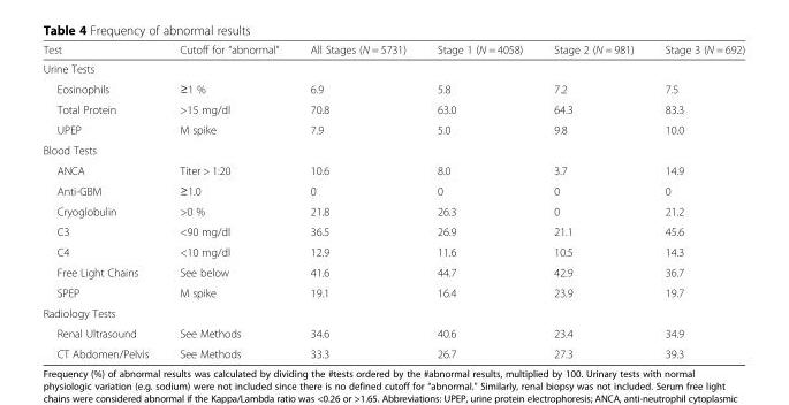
<table><thead><tr><td>Test</td><td>Cutoff for “abnormal”</td><td>All Stages (N = 5731)</td><td>Stage 1 (N = 4058)</td><td>Stage 2 (N = 981)</td><td>Stage 3 (N = 692)</td></tr></thead><tbody><tr><td colspan="6">Urine Tests</td></tr><tr><td>Eosinophils</td><td>≥1 %</td><td>6.9</td><td>5.8</td><td>7.2</td><td>7.5</td></tr><tr><td>Total Protein</td><td>&gt;15 mg/dl</td><td>70.8</td><td>63.0</td><td>64.3</td><td>83.3</td></tr><tr><td>UPEP</td><td>M spike</td><td>7.9</td><td>5.0</td><td>9.8</td><td>10.0</td></tr><tr><td colspan="6">Blood Tests</td></tr><tr><td>ANCA</td><td>Titer &gt; 1:20</td><td>10.6</td><td>8.0</td><td>3.7</td><td>14.9</td></tr><tr><td>Anti-GBM</td><td>≥1.0</td><td>0</td><td>0</td><td>0</td><td>0</td></tr><tr><td>Cryoglobulin</td><td>&gt;0 %</td><td>21.8</td><td>26.3</td><td>0</td><td>21.2</td></tr><tr><td>C3</td><td>&lt;90 mg/dl</td><td>36.5</td><td>26.9</td><td>21.1</td><td>45.6</td></tr><tr><td>C4</td><td>&lt;10 mg/dl</td><td>12.9</td><td>11.6</td><td>10.5</td><td>14.3</td></tr><tr><td>Free Light Chains</td><td>See below</td><td>41.6</td><td>44.7</td><td>42.9</td><td>36.7</td></tr><tr><td>SPEP</td><td>M spike</td><td>19.1</td><td>16.4</td><td>23.9</td><td>19.7</td></tr><tr><td colspan="6">Radiology Tests</td></tr><tr><td>Renal Ultrasound</td><td>See Methods</td><td>34.6</td><td>40.6</td><td>23.4</td><td>34.9</td></tr><tr><td>CT Abdomen/Pelvis</td><td>See Methods</td><td>33.3</td><td>26.7</td><td>27.3</td><td>39.3</td></tr></tbody></table>